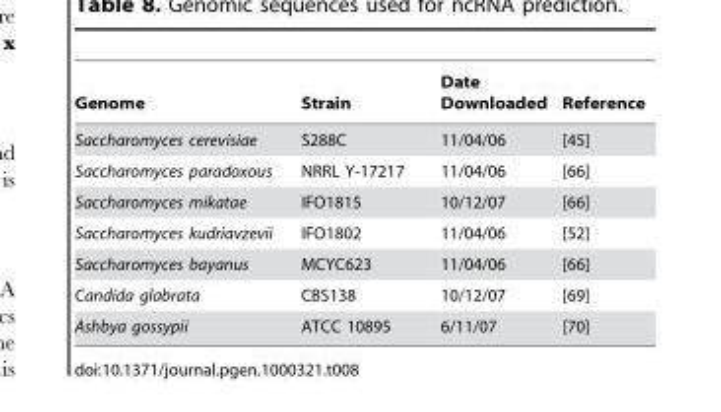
<table><thead><tr><td>Genome</td><td>Strain</td><td>Date Downloaded</td><td>Reference</td></tr></thead><tbody><tr><td>Saccharomyces cerevisiae</td><td>S288C</td><td>11/04/06</td><td>[45]</td></tr><tr><td>Saccharomyces paradoxous</td><td>NRRL Y-17217</td><td>11/04/06</td><td>[66]</td></tr><tr><td>Saccharomyces mikatae</td><td>IFO1815</td><td>10/12/07</td><td>[66]</td></tr><tr><td>Saccharomyces kudriavzevii</td><td>IFO1802</td><td>11/04/06</td><td>[52]</td></tr><tr><td>Saccharomyces bayanus</td><td>MCYC623</td><td>11/04/06</td><td>[66]</td></tr><tr><td>Candida glabrata</td><td>CBS138</td><td>10/12/07</td><td>[69]</td></tr><tr><td>Ashbya gossypii</td><td>ATCC 10895</td><td>6/11/07</td><td>[70]</td></tr></tbody></table>